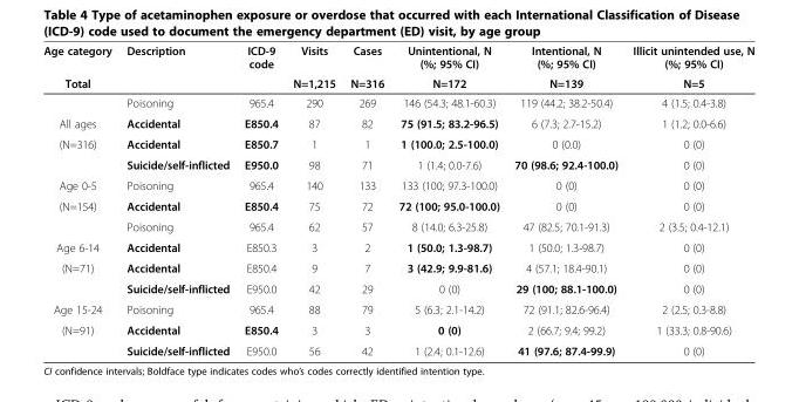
<table><thead><tr><td rowspan="2">Age category Total</td><td rowspan="2">Description</td><td rowspan="2">ICD-9 code</td><td rowspan="2">Visits N=1,215</td><td rowspan="2">Cases N=316</td><td rowspan="2">Unintentional, N (%; 95% CI) N=172</td><td rowspan="2">Intentional, N (%; 95% CI) N=139</td><td rowspan="2">Illicit unintended use, N (%; 95% CI) N=5</td></tr><tr></tr></thead><tbody><tr><td></td><td>Poisoning</td><td>965.4</td><td>290</td><td>269</td><td>146 (54.3; 48.1-60.3)</td><td>119 (44.2; 38.2-50.4)</td><td>4 (1.5; 0.4-3.8)</td></tr><tr><td>All ages</td><td>Accidental</td><td>E850.4</td><td>87</td><td>82</td><td>75 (91.5; 83.2-96.5)</td><td>6 (7.3; 2.7-15.2)</td><td>1 (1.2; 0.0-6.6)</td></tr><tr><td rowspan="2">(N=316)</td><td>Accidental</td><td>E850.7</td><td>1</td><td>1</td><td>1 (100.0; 2.5-100.0)</td><td>0 (0.0)</td><td>0 (0)</td></tr><tr><td>Suicide/self-inflicted</td><td>E950.0</td><td>98</td><td>71</td><td>1 (1.4; 0.0-7.6)</td><td>70 (98.6; 92.4-100.0)</td><td>0 (0)</td></tr><tr><td>Age 0-5</td><td>Poisoning</td><td>965.4</td><td>140</td><td>133</td><td>133 (100; 97.3-100.0)</td><td>0 (0)</td><td>0 (0)</td></tr><tr><td rowspan="2">(N=154)</td><td>Accidental</td><td>E850.4</td><td>75</td><td>72</td><td>72 (100; 95.0-100.0)</td><td>0 (0)</td><td>0 (0)</td></tr><tr><td>Poisoning</td><td>965.4</td><td>62</td><td>57</td><td>8 (14.0; 6.3-25.8)</td><td>47 (82.5; 70.1-91.3)</td><td>2 (3.5; 0.4-12.1)</td></tr><tr><td>Age 6-14</td><td>Accidental</td><td>E850.3</td><td>3</td><td>2</td><td>1 (50.0; 1.3-98.7)</td><td>1 (50.0; 1.3-98.7)</td><td>0 (0)</td></tr><tr><td rowspan="2">(N=71)</td><td>Accidental</td><td>E850.4</td><td>9</td><td>7</td><td>3 (42.9; 9.9-81.6)</td><td>4 (57.1; 18.4-90.1)</td><td>0 (0)</td></tr><tr><td>Suicide/self-inflicted</td><td>E950.0</td><td>42</td><td>29</td><td>0 (0)</td><td>29 (100; 88.1-100.0)</td><td>0 (0)</td></tr><tr><td>Age 15-24</td><td>Poisoning</td><td>965.4</td><td>88</td><td>79</td><td>5 (6.3; 2.1-14.2)</td><td>72 (91.1; 82.6-96.4)</td><td>2 (2.5; 0.3-8.8)</td></tr><tr><td rowspan="2">(N=91)</td><td>Accidental</td><td>E850.4</td><td>3</td><td>3</td><td>0 (0)</td><td>2 (66.7; 9.4; 99.2)</td><td>1 (33.3; 0.8-90.6)</td></tr><tr><td>Suicide/self-inflicted</td><td>E950.0</td><td>56</td><td>42</td><td>1 (2.4; 0.1-12.6)</td><td>41 (97.6; 87.4-99.9)</td><td>0 (0)</td></tr></tbody></table>